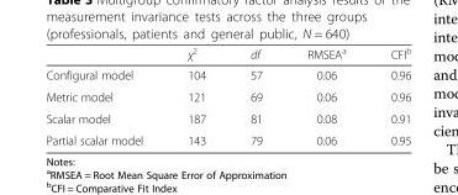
<table><thead><tr><td></td><td>χ<sup>2</sup></td><td>df</td><td>RMSEA<sup>a</sup></td><td>CFI<sup>b</sup></td></tr></thead><tbody><tr><td>Configural model</td><td>104</td><td>57</td><td>0.06</td><td>0.96</td></tr><tr><td>Metric model</td><td>121</td><td>69</td><td>0.06</td><td>0.96</td></tr><tr><td>Scalar model</td><td>187</td><td>81</td><td>0.08</td><td>0.91</td></tr><tr><td>Partial scalar model</td><td>143</td><td>79</td><td>0.06</td><td>0.95</td></tr></tbody></table>